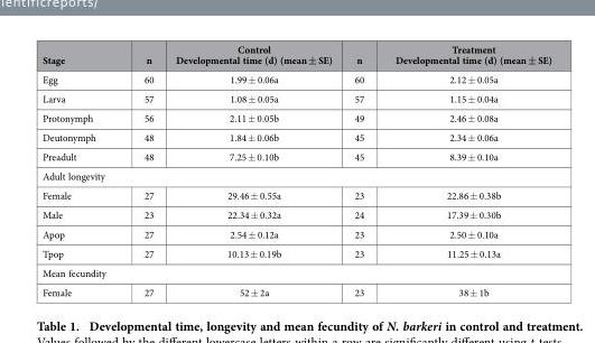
<table><thead><tr><td>Stage</td><td>n</td><td>Control Developmental time (d) (mean ± SE)</td><td>n</td><td>Treatment Developmental time (d) (mean ± SE)</td></tr></thead><tbody><tr><td>Egg</td><td>60</td><td>1.99 ± 0.06a</td><td>60</td><td>2.12 ± 0.05a</td></tr><tr><td>Larva</td><td>57</td><td>1.08 ± 0.05a</td><td>57</td><td>1.15 ± 0.04a</td></tr><tr><td>Protonymph</td><td>56</td><td>2.11 ± 0.05b</td><td>49</td><td>2.46 ± 0.08a</td></tr><tr><td>Deutonymph</td><td>48</td><td>1.84 ± 0.06b</td><td>45</td><td>2.34 ± 0.06a</td></tr><tr><td>Preadult</td><td>48</td><td>7.25 ± 0.10b</td><td>45</td><td>8.39 ± 0.10a</td></tr><tr><td colspan="5">Adult longevity</td></tr><tr><td>Female</td><td>27</td><td>29.46 ± 0.55a</td><td>23</td><td>22.86 ± 0.38b</td></tr><tr><td>Male</td><td>23</td><td>22.34 ± 0.32a</td><td>24</td><td>17.39 ± 0.30b</td></tr><tr><td>Apop</td><td>27</td><td>2.54 ± 0.12a</td><td>23</td><td>2.50 ± 0.10a</td></tr><tr><td>Tpop</td><td>27</td><td>10.13 ± 0.19b</td><td>23</td><td>11.25 ± 0.13a</td></tr><tr><td colspan="5">Mean fecundity</td></tr><tr><td>Female</td><td>27</td><td>52 ± 2a</td><td>23</td><td>38 ± 1b</td></tr></tbody></table>